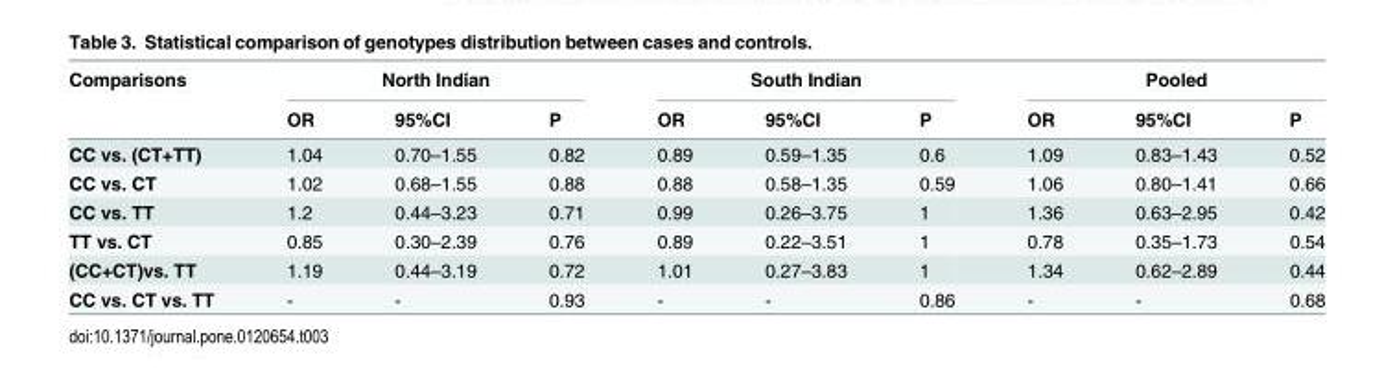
<table><thead><tr><td rowspan="2">Comparisons</td><td colspan="3">North Indian</td><td colspan="3">South Indian</td><td colspan="3">Pooled</td></tr><tr><td>OR</td><td>95%CI</td><td>P</td><td>OR</td><td>95%CI</td><td>P</td><td>OR</td><td>95%CI</td><td>P</td></tr></thead><tbody><tr><td>CC vs. (CT+TT)</td><td>1.04</td><td>0.70–1.55</td><td>0.82</td><td>0.89</td><td>0.59–1.35</td><td>0.6</td><td>1.09</td><td>0.83–1.43</td><td>0.52</td></tr><tr><td>CC vs. CT</td><td>1.02</td><td>0.68–1.55</td><td>0.88</td><td>0.88</td><td>0.58–1.35</td><td>0.59</td><td>1.06</td><td>0.80–1.41</td><td>0.66</td></tr><tr><td>CC vs. TT</td><td>1.2</td><td>0.44–3.23</td><td>0.71</td><td>0.99</td><td>0.26–3.75</td><td>1</td><td>1.36</td><td>0.63–2.95</td><td>0.42</td></tr><tr><td>TT vs. CT</td><td>0.85</td><td>0.30–2.39</td><td>0.76</td><td>0.89</td><td>0.22–3.51</td><td>1</td><td>0.78</td><td>0.35–1.73</td><td>0.54</td></tr><tr><td>(CC+CT)vs. TT</td><td>1.19</td><td>0.44–3.19</td><td>0.72</td><td>1.01</td><td>0.27–3.83</td><td>1</td><td>1.34</td><td>0.62–2.89</td><td>0.44</td></tr><tr><td>CC vs. CT vs. TT</td><td>-</td><td>-</td><td>0.93</td><td>-</td><td>-</td><td>0.86</td><td>-</td><td>-</td><td>0.68</td></tr></tbody></table>